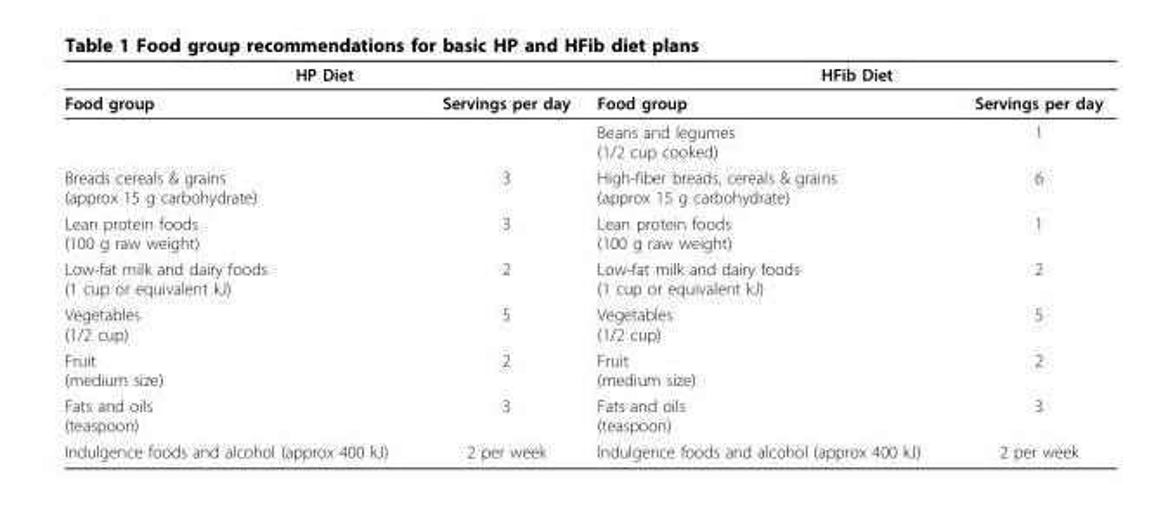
<table><thead><tr><td colspan="2">HP Diet</td><td colspan="2">HFib Diet</td></tr><tr><td>Food group</td><td>Servings per day</td><td>Food group</td><td>Servings per day</td></tr></thead><tbody><tr><td></td><td></td><td>Beans and legumes (1/2 cup cooked)</td><td>1</td></tr><tr><td>Breads cereals &amp; grains (approx 15 g carbohydrate)</td><td>3</td><td>High-fiber breads, cereals &amp; grains (approx 15 g carbohydrate)</td><td>6</td></tr><tr><td>Lean protein foods (100 g raw weight)</td><td>3</td><td>Lean protein foods (100 g raw weight)</td><td>1</td></tr><tr><td>Low-fat milk and dairy foods (1 cup or equivalent kJ)</td><td>2</td><td>Low-fat milk and dairy foods (1 cup or equivalent kJ)</td><td>2</td></tr><tr><td>Vegetables (1/2 cup)</td><td>5</td><td>Vegetables (1/2 cup)</td><td>5</td></tr><tr><td>Fruit (medium size)</td><td>2</td><td>Fruit (medium size)</td><td>2</td></tr><tr><td>Fats and oils (teaspoon)</td><td>3</td><td>Fats and oils (teaspoon)</td><td>3</td></tr><tr><td>Indulgence foods and alcohol (approx 400 kJ)</td><td>2 per week</td><td>Indulgence foods and alcohol (approx 400 kJ)</td><td>2 per week</td></tr></tbody></table>